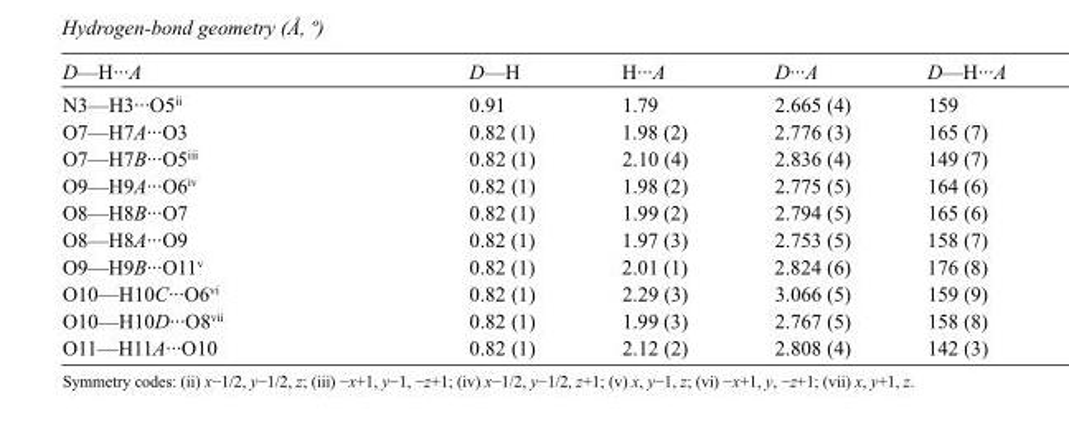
<table><tbody><tr><td>D—H···A</td><td>D—H</td><td>H···A</td><td>D···A</td><td>D—H···A</td></tr><tr><td>N3—H3···O5<sup>ii</sup></td><td>0.91</td><td>1.79</td><td>2.665 (4)</td><td>159</td></tr><tr><td>O7—H7A···O3</td><td>0.82 (1)</td><td>1.98 (2)</td><td>2.776 (3)</td><td>165 (7)</td></tr><tr><td>O7—H7B···O5<sup>iii</sup></td><td>0.82 (1)</td><td>2.10 (4)</td><td>2.836 (4)</td><td>149 (7)</td></tr><tr><td>O9—H9A···O6<sup>iv</sup></td><td>0.82 (1)</td><td>1.98 (2)</td><td>2.775 (5)</td><td>164 (6)</td></tr><tr><td>O8—H8B···O7</td><td>0.82 (1)</td><td>1.99 (2)</td><td>2.794 (5)</td><td>165 (6)</td></tr><tr><td>O8—H8A···O9</td><td>0.82 (1)</td><td>1.97 (3)</td><td>2.753 (5)</td><td>158 (7)</td></tr><tr><td>O9—H9B···O11<sup>v</sup></td><td>0.82 (1)</td><td>2.01 (1)</td><td>2.824 (6)</td><td>176 (8)</td></tr><tr><td>O10—H10C···O6<sup>vi</sup></td><td>0.82 (1)</td><td>2.29 (3)</td><td>3.066 (5)</td><td>159 (9)</td></tr><tr><td>O10—H10D···O8<sup>vii</sup></td><td>0.82 (1)</td><td>1.99 (3)</td><td>2.767 (5)</td><td>158 (8)</td></tr><tr><td>O11—H11A···O10</td><td>0.82 (1)</td><td>2.12 (2)</td><td>2.808 (4)</td><td>142 (3)</td></tr></tbody></table>